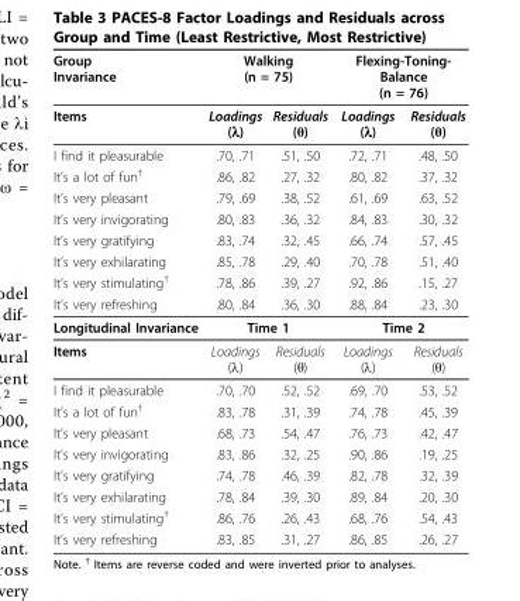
<table><thead><tr><td rowspan="2">Group Invariance Items</td><td colspan="2">Walking (n = 75)</td><td colspan="2">Flexing-Toning- Balance (n = 76)</td></tr><tr><td>Loadings (λ)</td><td>Residuals (θ)</td><td>Loadings (λ)</td><td>Residuals (θ)</td></tr></thead><tbody><tr><td>I find it pleasurable</td><td>.70, .71</td><td>.51, .50</td><td>.72, .71</td><td>.48, .50</td></tr><tr><td>It’s a lot of fun<sup>†</sup></td><td>.86, .82</td><td>.27, .32</td><td>.80, .82</td><td>.37, .32</td></tr><tr><td>It’s very pleasant</td><td>.79, .69</td><td>.38, .52</td><td>.61, .69</td><td>.63, .52</td></tr><tr><td>It’s very invigorating</td><td>.80, .83</td><td>.36, .32</td><td>.84, .83</td><td>.30, .32</td></tr><tr><td>It’s very gratifying</td><td>.83, .74</td><td>.32, .45</td><td>.66, .74</td><td>.57, .45</td></tr><tr><td>It’s very exhilarating</td><td>.85, .78</td><td>.29, .40</td><td>.70, .78</td><td>.51, .40</td></tr><tr><td>It’s very stimulating<sup>†</sup></td><td>.78, .86</td><td>.39, .27</td><td>.92, .86</td><td>.15, .27</td></tr><tr><td>It’s very refreshing</td><td>.80, .84</td><td>.36, .30</td><td>.88, .84</td><td>.23, .30</td></tr><tr><td>Longitudinal Invariance</td><td colspan="2">Time 1</td><td colspan="2">Time 2</td></tr><tr><td>Items</td><td>Loadings (λ)</td><td>Residuals (θ)</td><td>Loadings (λ)</td><td>Residuals (θ)</td></tr><tr><td>I find it pleasurable</td><td>.70, .70</td><td>.52, .52</td><td>.69, .70</td><td>.53, .52</td></tr><tr><td>It’s a lot of fun<sup>†</sup></td><td>.83, .78</td><td>.31, .39</td><td>.74, .78</td><td>.45, .39</td></tr><tr><td>It’s very pleasant</td><td>.68, .73</td><td>.54, .47</td><td>.76, .73</td><td>.42, .47</td></tr><tr><td>It’s very invigorating</td><td>.83, .86</td><td>.32, .25</td><td>.90, .86</td><td>.19, .25</td></tr><tr><td>It’s very gratifying</td><td>.74, .78</td><td>.46, .39</td><td>.82, .78</td><td>.32, .39</td></tr><tr><td>It’s very exhilarating</td><td>.78, .84</td><td>.39, .30</td><td>.89, .84</td><td>.20, .30</td></tr><tr><td>It’s very stimulating<sup>†</sup></td><td>.86, .76</td><td>.26, .43</td><td>.68, .76</td><td>.54, .43</td></tr><tr><td>It’s very refreshing</td><td>.83, .85</td><td>.31, .27</td><td>.86, .85</td><td>.26, .27</td></tr></tbody></table>